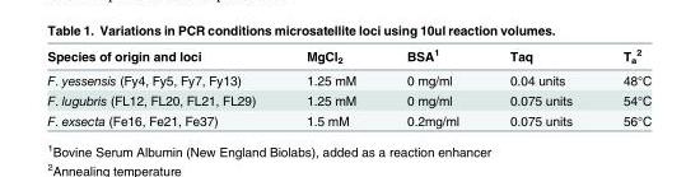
<table><thead><tr><td>Species of origin and loci</td><td>MgCl<sub>2</sub></td><td>BSA<sup>1</sup></td><td>Taq</td><td>T<sub>a</sub> <sup>2</sup></td></tr></thead><tbody><tr><td>F. yessensis (Fy4, Fy5, Fy7, Fy13)</td><td>1.25 mM</td><td>0 mg/ml</td><td>0.04 units</td><td>48°C</td></tr><tr><td>F. lugubris (FL12, FL20, FL21, FL29)</td><td>1.25 mM</td><td>0 mg/ml</td><td>0.075 units</td><td>54°C</td></tr><tr><td>F. exsecta (Fe16, Fe21, Fe37)</td><td>1.5 mM</td><td>0.2mg/ml</td><td>0.075 units</td><td>56°C</td></tr></tbody></table>